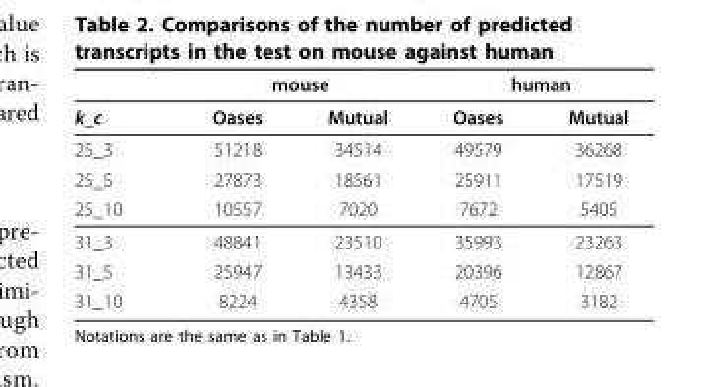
<table><thead><tr><td rowspan="2">k_c</td><td colspan="2">mouse</td><td colspan="2">human</td></tr><tr><td>Oases</td><td>Mutual</td><td>Oases</td><td>Mutual</td></tr></thead><tbody><tr><td>25_3</td><td>51218</td><td>34514</td><td>49579</td><td>36268</td></tr><tr><td>25_5</td><td>27873</td><td>18561</td><td>25911</td><td>17519</td></tr><tr><td>25_10</td><td>10557</td><td>7020</td><td>7672</td><td>5405</td></tr><tr><td>31_3</td><td>48841</td><td>23510</td><td>35993</td><td>23263</td></tr><tr><td>31_5</td><td>25947</td><td>13433</td><td>20396</td><td>12867</td></tr><tr><td>31_10</td><td>8224</td><td>4358</td><td>4705</td><td>3182</td></tr></tbody></table>